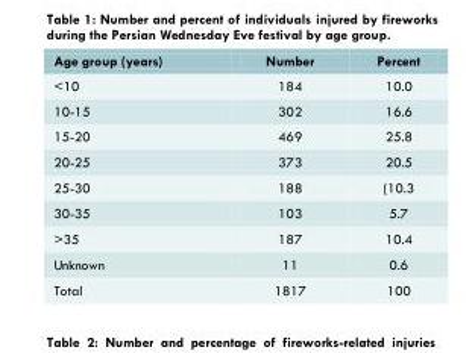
<table><thead><tr><td>Age group (years)</td><td>Number</td><td>Percent</td></tr></thead><tbody><tr><td>&lt;10</td><td>184</td><td>10.0</td></tr><tr><td>10-15</td><td>302</td><td>16.6</td></tr><tr><td>15-20</td><td>469</td><td>25.8</td></tr><tr><td>20-25</td><td>373</td><td>20.5</td></tr><tr><td>25-30</td><td>188</td><td>(10.3</td></tr><tr><td>30-35</td><td>103</td><td>5.7</td></tr><tr><td>&gt;35</td><td>187</td><td>10.4</td></tr><tr><td>Unknown</td><td>11</td><td>0.6</td></tr><tr><td>Total</td><td>1817</td><td>100</td></tr></tbody></table>